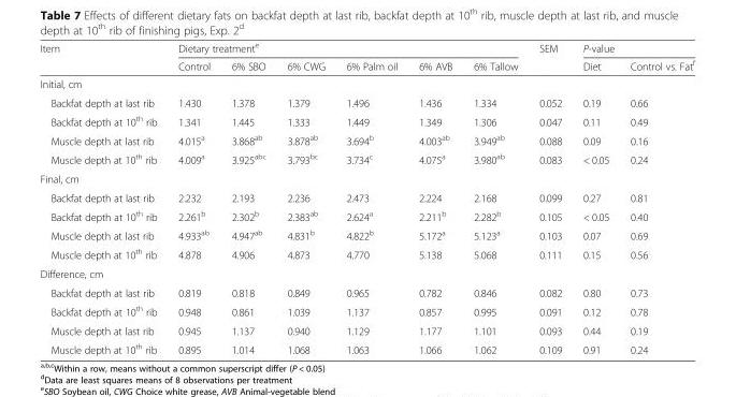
<table><thead><tr><td rowspan="2">Item</td><td colspan="6">Dietary treatment<sup>e</sup></td><td rowspan="2">SEM</td><td colspan="2">P-value</td></tr><tr><td>Control</td><td>6% SBO</td><td>6% CWG</td><td>6% Palm oil</td><td>6% AVB</td><td>6% Tallow</td><td>Diet</td><td>Control vs. Fat<sup>f</sup></td></tr></thead><tbody><tr><td colspan="10">Initial, cm</td></tr><tr><td>Backfat depth at last rib</td><td>1.430</td><td>1.378</td><td>1.379</td><td>1.496</td><td>1.436</td><td>1.334</td><td>0.052</td><td>0.19</td><td>0.66</td></tr><tr><td>Backfat depth at 10<sup>th</sup> rib</td><td>1.341</td><td>1.445</td><td>1.333</td><td>1.449</td><td>1.349</td><td>1.306</td><td>0.047</td><td>0.11</td><td>0.49</td></tr><tr><td>Muscle depth at last rib</td><td>4.015<sup>a</sup></td><td>3.868<sup>ab</sup></td><td>3.878<sup>ab</sup></td><td>3.694<sup>b</sup></td><td>4.003<sup>ab</sup></td><td>3.949<sup>ab</sup></td><td>0.088</td><td>0.09</td><td>0.16</td></tr><tr><td>Muscle depth at 10<sup>th</sup> rib</td><td>4.009<sup>a</sup></td><td>3.925<sup>abc</sup></td><td>3.793<sup>bc</sup></td><td>3.734<sup>c</sup></td><td>4.075<sup>a</sup></td><td>3.980<sup>ab</sup></td><td>0.083</td><td>&lt; 0.05</td><td>0.24</td></tr><tr><td colspan="10">Final, cm</td></tr><tr><td>Backfat depth at last rib</td><td>2.232</td><td>2.193</td><td>2.236</td><td>2.473</td><td>2.224</td><td>2.168</td><td>0.099</td><td>0.27</td><td>0.81</td></tr><tr><td>Backfat depth at 10<sup>th</sup> rib</td><td>2.261<sup>b</sup></td><td>2.302<sup>b</sup></td><td>2.383<sup>ab</sup></td><td>2.624<sup>a</sup></td><td>2.211<sup>b</sup></td><td>2.282<sup>b</sup></td><td>0.105</td><td>&lt; 0.05</td><td>0.40</td></tr><tr><td>Muscle depth at last rib</td><td>4.933<sup>ab</sup></td><td>4.947<sup>ab</sup></td><td>4.831<sup>b</sup></td><td>4.822<sup>b</sup></td><td>5.172<sup>a</sup></td><td>5.123<sup>a</sup></td><td>0.103</td><td>0.07</td><td>0.69</td></tr><tr><td>Muscle depth at 10<sup>th</sup> rib</td><td>4.878</td><td>4.906</td><td>4.873</td><td>4.770</td><td>5.138</td><td>5.068</td><td>0.111</td><td>0.15</td><td>0.56</td></tr><tr><td colspan="10">Difference, cm</td></tr><tr><td>Backfat depth at last rib</td><td>0.819</td><td>0.818</td><td>0.849</td><td>0.965</td><td>0.782</td><td>0.846</td><td>0.082</td><td>0.80</td><td>0.73</td></tr><tr><td>Backfat depth at 10<sup>th</sup> rib</td><td>0.948</td><td>0.861</td><td>1.039</td><td>1.137</td><td>0.857</td><td>0.995</td><td>0.091</td><td>0.12</td><td>0.78</td></tr><tr><td>Muscle depth at last rib</td><td>0.945</td><td>1.137</td><td>0.940</td><td>1.129</td><td>1.177</td><td>1.101</td><td>0.093</td><td>0.44</td><td>0.19</td></tr><tr><td>Muscle depth at 10<sup>th</sup> rib</td><td>0.895</td><td>1.014</td><td>1.068</td><td>1.063</td><td>1.066</td><td>1.062</td><td>0.109</td><td>0.91</td><td>0.24</td></tr></tbody></table>